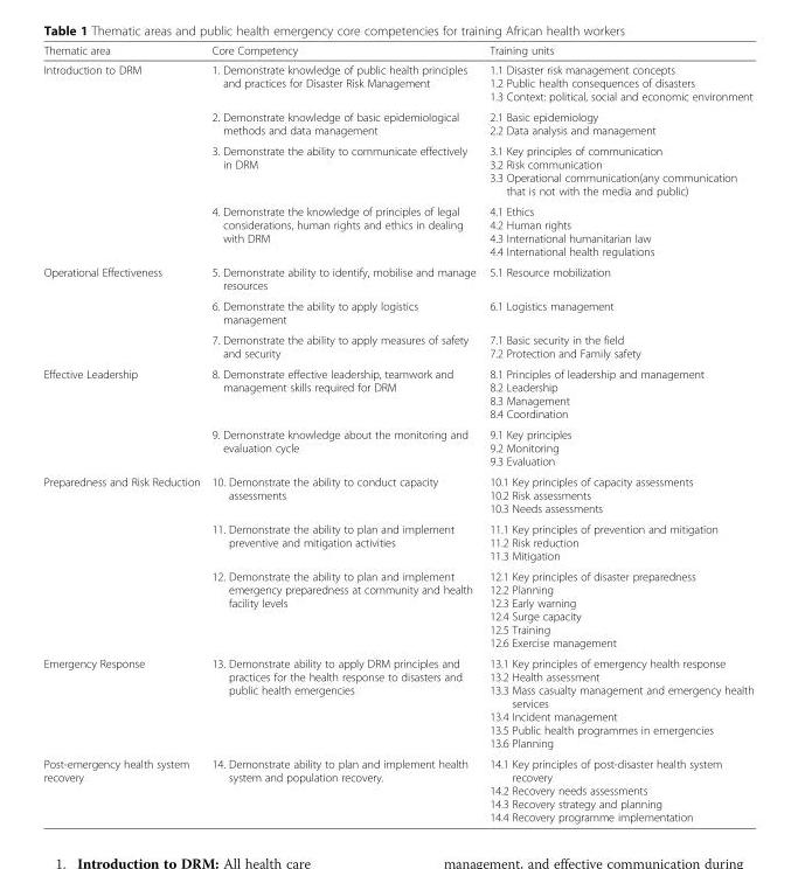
<table><thead><tr><td>Thematic area</td><td>Core Competency</td><td>Training units</td></tr></thead><tbody><tr><td rowspan="4">Introduction to DRM</td><td>1. Demonstrate knowledge of public health principles and practices for Disaster Risk Management</td><td>1.1 Disaster risk management concepts 1.2 Public health consequences of disasters 1.3 Context: political, social and economic environment</td></tr><tr><td>2. Demonstrate knowledge of basic epidemiological methods and data management</td><td>2.1 Basic epidemiology 2.2 Data analysis and management</td></tr><tr><td>3. Demonstrate the ability to communicate effectively in DRM</td><td>3.1 Key principles of communication 3.2 Risk communication 3.3 Operational communication(any communication that is not with the media and public)</td></tr><tr><td>4. Demonstrate the knowledge of principles of legal considerations, human rights and ethics in dealing with DRM</td><td>4.1 Ethics 4.2 Human rights 4.3 International humanitarian law 4.4 International health regulations</td></tr><tr><td rowspan="3">Operational Effectiveness</td><td>5. Demonstrate ability to identify, mobilise and manage resources</td><td>5.1 Resource mobilization</td></tr><tr><td>6. Demonstrate the ability to apply logistics management</td><td>6.1 Logistics management</td></tr><tr><td>7. Demonstrate the ability to apply measures of safety and security</td><td>7.1 Basic security in the field 7.2 Protection and Family safety</td></tr><tr><td rowspan="2">Effective Leadership</td><td>8. Demonstrate effective leadership, teamwork and management skills required for DRM</td><td>8.1 Principles of leadership and management 8.2 Leadership 8.3 Management 8.4 Coordination</td></tr><tr><td>9. Demonstrate knowledge about the monitoring and evaluation cycle</td><td>9.1 Key principles 9.2 Monitoring 9.3 Evaluation</td></tr><tr><td rowspan="3">Preparedness and Risk Reduction</td><td>10. Demonstrate the ability to conduct capacity assessments</td><td>10.1 Key principles of capacity assessments 10.2 Risk assessments 10.3 Needs assessments</td></tr><tr><td>11. Demonstrate the ability to plan and implement preventive and mitigation activities</td><td>11.1 Key principles of prevention and mitigation 11.2 Risk reduction 11.3 Mitigation</td></tr><tr><td>12. Demonstrate the ability to plan and implement emergency preparedness at community and health facility levels</td><td>12.1 Key principles of disaster preparedness 12.2 Planning 12.3 Early warning 12.4 Surge capacity 12.5 Training 12.6 Exercise management</td></tr><tr><td>Emergency Response</td><td>13. Demonstrate ability to apply DRM principles and practices for the health response to disasters and public health emergencies</td><td>13.1 Key principles of emergency health response 13.2 Health assessment 13.3 Mass casualty management and emergency health services 13.4 Incident management 13.5 Public health programmes in emergencies 13.6 Planning</td></tr><tr><td>Post-emergency health system recovery</td><td>14. Demonstrate ability to plan and implement health system and population recovery.</td><td>14.1 Key principles of post-disaster health system recovery 14.2 Recovery needs assessments 14.3 Recovery strategy and planning 14.4 Recovery programme implementation</td></tr></tbody></table>